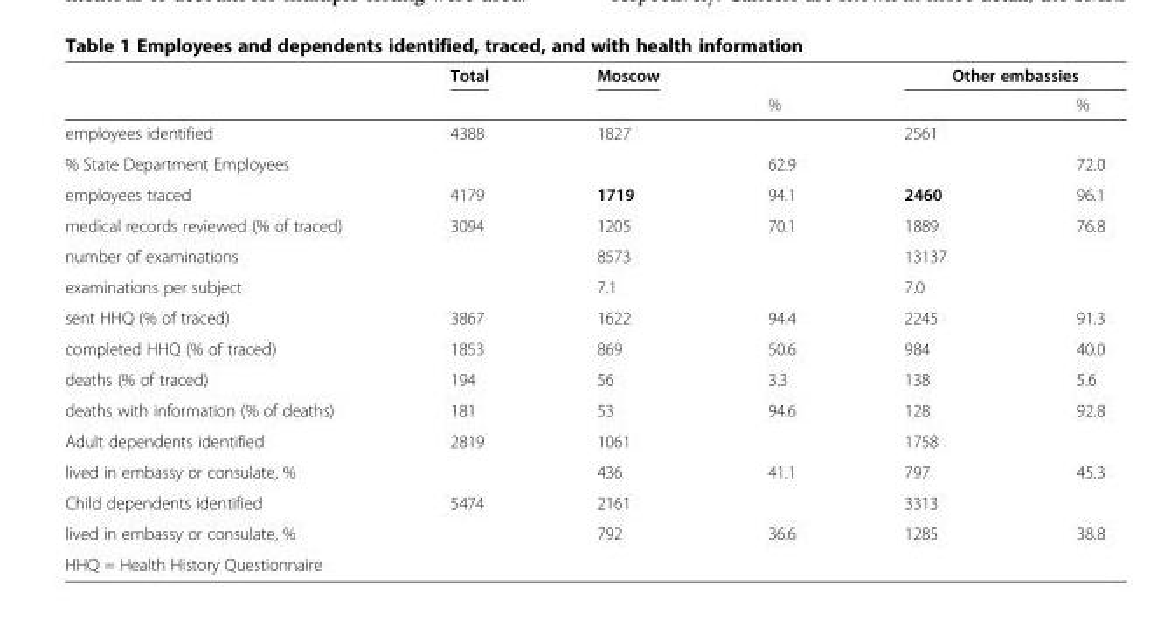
<table><thead><tr><td rowspan="2"></td><td rowspan="2">Total</td><td rowspan="2">Moscow</td><td rowspan="2">%</td><td colspan="2">Other embassies</td></tr><tr><td></td><td>%</td></tr></thead><tbody><tr><td>employees identified</td><td>4388</td><td>1827</td><td></td><td>2561</td><td></td></tr><tr><td>% State Department Employees</td><td></td><td></td><td>62.9</td><td></td><td>72.0</td></tr><tr><td>employees traced</td><td>4179</td><td>1719</td><td>94.1</td><td>2460</td><td>96.1</td></tr><tr><td>medical records reviewed (% of traced)</td><td>3094</td><td>1205</td><td>70.1</td><td>1889</td><td>76.8</td></tr><tr><td>number of examinations</td><td></td><td>8573</td><td></td><td>13137</td><td></td></tr><tr><td>examinations per subject</td><td></td><td>7.1</td><td></td><td>7.0</td><td></td></tr><tr><td>sent HHQ (% of traced)</td><td>3867</td><td>1622</td><td>94.4</td><td>2245</td><td>91.3</td></tr><tr><td>completed HHQ (% of traced)</td><td>1853</td><td>869</td><td>50.6</td><td>984</td><td>40.0</td></tr><tr><td>deaths (% of traced)</td><td>194</td><td>56</td><td>3.3</td><td>138</td><td>5.6</td></tr><tr><td>deaths with information (% of deaths)</td><td>181</td><td>53</td><td>94.6</td><td>128</td><td>92.8</td></tr><tr><td>Adult dependents identified</td><td>2819</td><td>1061</td><td></td><td>1758</td><td></td></tr><tr><td>lived in embassy or consulate, %</td><td></td><td>436</td><td>41.1</td><td>797</td><td>45.3</td></tr><tr><td>Child dependents identified</td><td>5474</td><td>2161</td><td></td><td>3313</td><td></td></tr><tr><td>lived in embassy or consulate, %</td><td></td><td>792</td><td>36.6</td><td>1285</td><td>38.8</td></tr><tr><td>HHQ = Health History Questionnaire</td><td></td><td></td><td></td><td></td><td></td></tr></tbody></table>